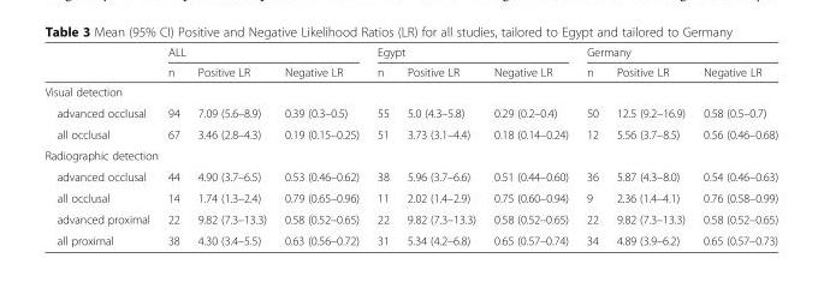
<table><thead><tr><td rowspan="2"></td><td colspan="3">ALL</td><td colspan="3">Egypt</td><td colspan="3">Germany</td></tr><tr><td>n</td><td>Positive LR</td><td>Negative LR</td><td>n</td><td>Positive LR</td><td>Negative LR</td><td>n</td><td>Positive LR</td><td>Negative LR</td></tr></thead><tbody><tr><td colspan="10">Visual detection</td></tr><tr><td>advanced occlusal</td><td>94</td><td>7.09 (5.6–8.9)</td><td>0.39 (0.3–0.5)</td><td>55</td><td>5.0 (4.3–5.8)</td><td>0.29 (0.2–0.4)</td><td>50</td><td>12.5 (9.2–16.9)</td><td>0.58 (0.5–0.7)</td></tr><tr><td>all occlusal</td><td>67</td><td>3.46 (2.8–4.3)</td><td>0.19 (0.15–0.25)</td><td>51</td><td>3.73 (3.1–4.4)</td><td>0.18 (0.14–0.24)</td><td>12</td><td>5.56 (3.7–8.5)</td><td>0.56 (0.46–0.68)</td></tr><tr><td colspan="10">Radiographic detection</td></tr><tr><td>advanced occlusal</td><td>44</td><td>4.90 (3.7–6.5)</td><td>0.53 (0.46–0.62)</td><td>38</td><td>5.96 (3.7–6.6)</td><td>0.51 (0.44–0.60)</td><td>36</td><td>5.87 (4.3–8.0)</td><td>0.54 (0.46–0.63)</td></tr><tr><td>all occlusal</td><td>14</td><td>1.74 (1.3–2.4)</td><td>0.79 (0.65–0.96)</td><td>11</td><td>2.02 (1.4–2.9)</td><td>0.75 (0.60–0.94)</td><td>9</td><td>2.36 (1.4–4.1)</td><td>0.76 (0.58–0.99)</td></tr><tr><td>advanced proximal</td><td>22</td><td>9.82 (7.3–13.3)</td><td>0.58 (0.52–0.65)</td><td>22</td><td>9.82 (7.3–13.3)</td><td>0.58 (0.52–0.65)</td><td>22</td><td>9.82 (7.3–13.3)</td><td>0.58 (0.52–0.65)</td></tr><tr><td>all proximal</td><td>38</td><td>4.30 (3.4–5.5)</td><td>0.63 (0.56–0.72)</td><td>31</td><td>5.34 (4.2–6.8)</td><td>0.65 (0.57–0.74)</td><td>34</td><td>4.89 (3.9–6.2)</td><td>0.65 (0.57–0.73)</td></tr></tbody></table>